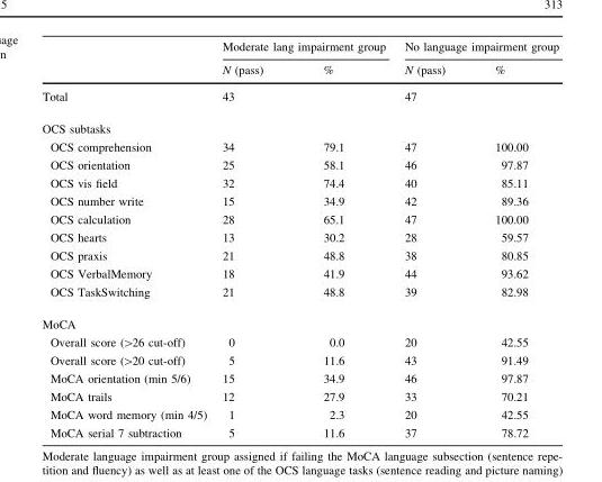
<table><thead><tr><td rowspan="2"></td><td colspan="2">Moderate lang impairment group</td><td colspan="2">No language impairment group</td></tr><tr><td>N (pass)</td><td>%</td><td>N (pass)</td><td>%</td></tr></thead><tbody><tr><td>Total</td><td>43</td><td></td><td>47</td><td></td></tr><tr><td colspan="5">OCS subtasks</td></tr><tr><td>OCS comprehension</td><td>34</td><td>79.1</td><td>47</td><td>100.00</td></tr><tr><td>OCS orientation</td><td>25</td><td>58.1</td><td>46</td><td>97.87</td></tr><tr><td>OCS vis field</td><td>32</td><td>74.4</td><td>40</td><td>85.11</td></tr><tr><td>OCS number write</td><td>15</td><td>34.9</td><td>42</td><td>89.36</td></tr><tr><td>OCS calculation</td><td>28</td><td>65.1</td><td>47</td><td>100.00</td></tr><tr><td>OCS hearts</td><td>13</td><td>30.2</td><td>28</td><td>59.57</td></tr><tr><td>OCS praxis</td><td>21</td><td>48.8</td><td>38</td><td>80.85</td></tr><tr><td>OCS VerbalMemory</td><td>18</td><td>41.9</td><td>44</td><td>93.62</td></tr><tr><td>OCS TaskSwitching</td><td>21</td><td>48.8</td><td>39</td><td>82.98</td></tr><tr><td colspan="5">MoCA</td></tr><tr><td>Overall score (&gt;26 cut-off)</td><td>0</td><td>0.0</td><td>20</td><td>42.55</td></tr><tr><td>Overall score (&gt;20 cut-off)</td><td>5</td><td>11.6</td><td>43</td><td>91.49</td></tr><tr><td>MoCA orientation (min 5/6)</td><td>15</td><td>34.9</td><td>46</td><td>97.87</td></tr><tr><td>MoCA trails</td><td>12</td><td>27.9</td><td>33</td><td>70.21</td></tr><tr><td>MoCA word memory (min 4/5)</td><td>1</td><td>2.3</td><td>20</td><td>42.55</td></tr><tr><td>MoCA serial 7 subtraction</td><td>5</td><td>11.6</td><td>37</td><td>78.72</td></tr></tbody></table>